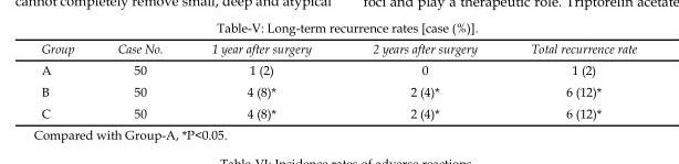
<table><thead><tr><td>Group</td><td>Case No.</td><td>1 year after surgery</td><td>2 years after surgery</td><td>Total recurrence rate</td></tr></thead><tbody><tr><td>A</td><td>50</td><td>1 (2)</td><td>0</td><td>1 (2)</td></tr><tr><td>B</td><td>50</td><td>4 (8)*</td><td>2 (4)*</td><td>6 (12)*</td></tr><tr><td>C</td><td>50</td><td>4 (8)*</td><td>2 (4)*</td><td>6 (12)*</td></tr></tbody></table>